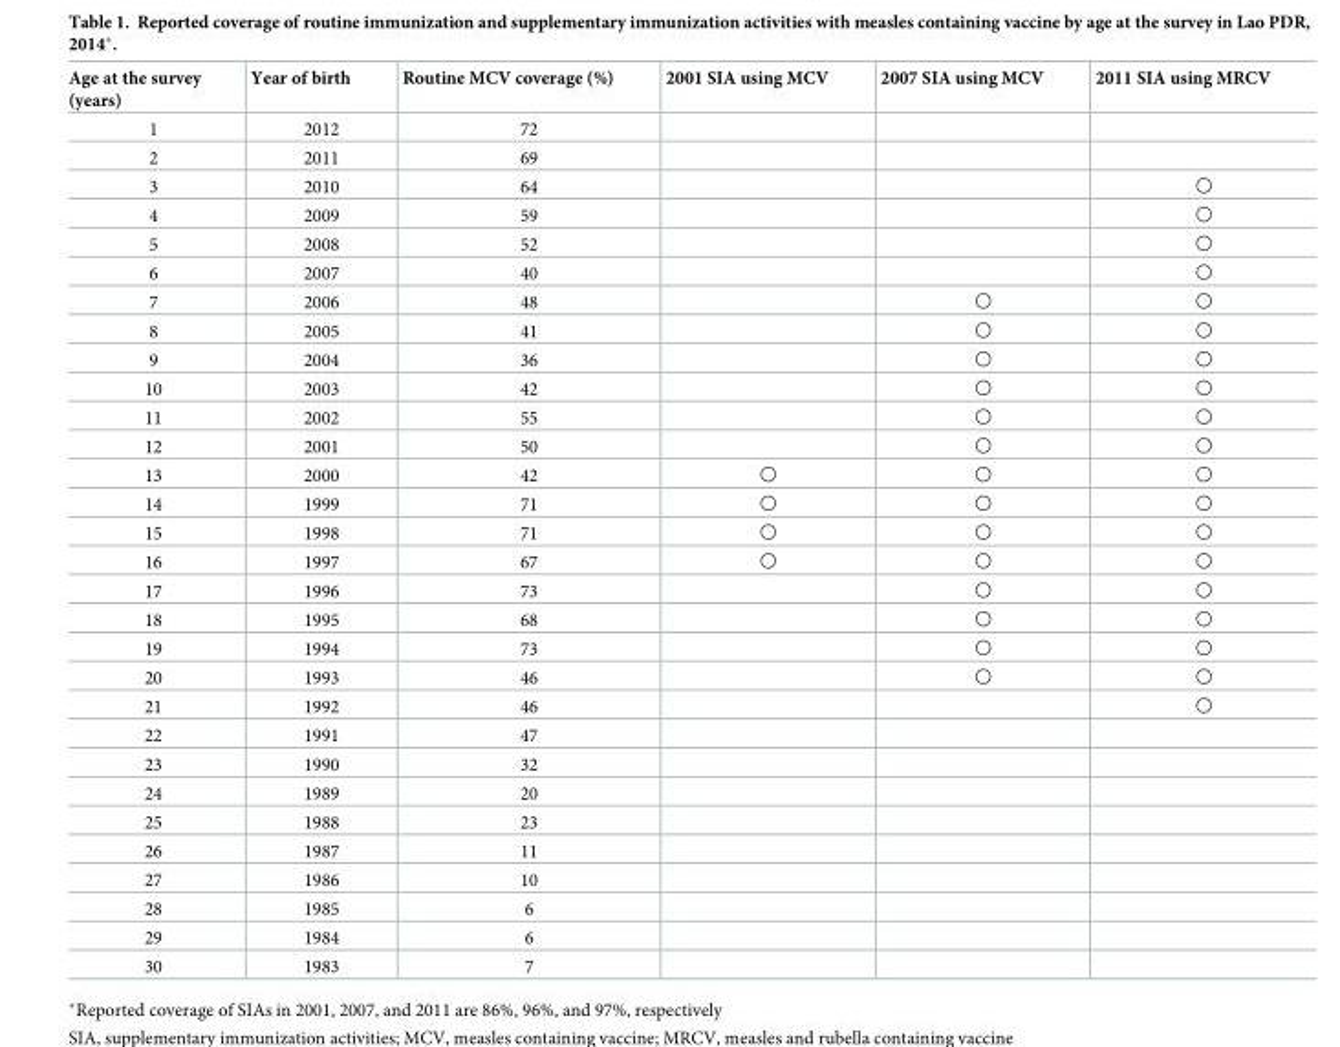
<table><thead><tr><td>Age at the survey (years)</td><td>Year of birth</td><td>Routine MCV coverage (%)</td><td>2001 SIA using MCV</td><td>2007 SIA using MCV</td><td>2011 SIA using MRCV</td></tr></thead><tbody><tr><td>1</td><td>2012</td><td>72</td><td></td><td></td><td></td></tr><tr><td>2</td><td>2011</td><td>69</td><td></td><td></td><td></td></tr><tr><td>3</td><td>2010</td><td>64</td><td></td><td></td><td>〇</td></tr><tr><td>4</td><td>2009</td><td>59</td><td></td><td></td><td>〇</td></tr><tr><td>5</td><td>2008</td><td>52</td><td></td><td></td><td>〇</td></tr><tr><td>6</td><td>2007</td><td>40</td><td></td><td></td><td>〇</td></tr><tr><td>7</td><td>2006</td><td>48</td><td></td><td>〇</td><td>〇</td></tr><tr><td>8</td><td>2005</td><td>41</td><td></td><td>〇</td><td>〇</td></tr><tr><td>9</td><td>2004</td><td>36</td><td></td><td>〇</td><td>〇</td></tr><tr><td>10</td><td>2003</td><td>42</td><td></td><td>〇</td><td>〇</td></tr><tr><td>11</td><td>2002</td><td>55</td><td></td><td>〇</td><td>〇</td></tr><tr><td>12</td><td>2001</td><td>50</td><td></td><td>〇</td><td>〇</td></tr><tr><td>13</td><td>2000</td><td>42</td><td>〇</td><td>〇</td><td>〇</td></tr><tr><td>14</td><td>1999</td><td>71</td><td>〇</td><td>〇</td><td>〇</td></tr><tr><td>15</td><td>1998</td><td>71</td><td>〇</td><td>〇</td><td>〇</td></tr><tr><td>16</td><td>1997</td><td>67</td><td>〇</td><td>〇</td><td>〇</td></tr><tr><td>17</td><td>1996</td><td>73</td><td></td><td>〇</td><td>〇</td></tr><tr><td>18</td><td>1995</td><td>68</td><td></td><td>〇</td><td>〇</td></tr><tr><td>19</td><td>1994</td><td>73</td><td></td><td>〇</td><td>〇</td></tr><tr><td>20</td><td>1993</td><td>46</td><td></td><td>〇</td><td>〇</td></tr><tr><td>21</td><td>1992</td><td>46</td><td></td><td></td><td>〇</td></tr><tr><td>22</td><td>1991</td><td>47</td><td></td><td></td><td></td></tr><tr><td>23</td><td>1990</td><td>32</td><td></td><td></td><td></td></tr><tr><td>24</td><td>1989</td><td>20</td><td></td><td></td><td></td></tr><tr><td>25</td><td>1988</td><td>23</td><td></td><td></td><td></td></tr><tr><td>26</td><td>1987</td><td>11</td><td></td><td></td><td></td></tr><tr><td>27</td><td>1986</td><td>10</td><td></td><td></td><td></td></tr><tr><td>28</td><td>1985</td><td>6</td><td></td><td></td><td></td></tr><tr><td>29</td><td>1984</td><td>6</td><td></td><td></td><td></td></tr><tr><td>30</td><td>1983</td><td>7</td><td></td><td></td><td></td></tr></tbody></table>